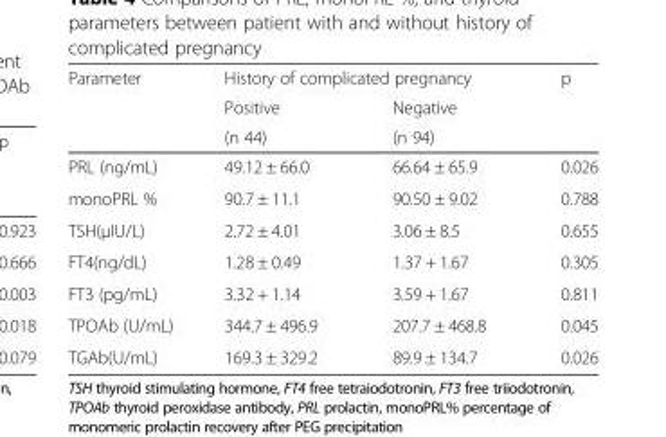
<table><thead><tr><td rowspan="3">Parameter</td><td colspan="2">History of complicated pregnancy</td><td rowspan="3">p</td></tr><tr><td rowspan="2">Positive (n 44)</td><td rowspan="2">Negative (n 94)</td></tr><tr></tr></thead><tbody><tr><td>PRL (ng/mL)</td><td>49.12 ± 66.0</td><td>66.64 ± 65.9</td><td>0.026</td></tr><tr><td>monoPRL %</td><td>90.7 ± 11.1</td><td>90.50 ± 9.02</td><td>0.788</td></tr><tr><td>TSH(μIU/L)</td><td>2.72 ± 4.01</td><td>3.06 ± 8.5</td><td>0.655</td></tr><tr><td>FT4(ng/dL)</td><td>1.28 ± 0.49</td><td>1.37 + 1.67</td><td>0.305</td></tr><tr><td>FT3 (pg/mL)</td><td>3.32 + 1.14</td><td>3.59 + 1.67</td><td>0.811</td></tr><tr><td>TPOAb (U/mL)</td><td>344.7 ± 496.9</td><td>207.7 ± 468.8</td><td>0.045</td></tr><tr><td>TGAb(U/mL)</td><td>169.3 ± 329.2</td><td>89.9 ± 134.7</td><td>0.026</td></tr></tbody></table>